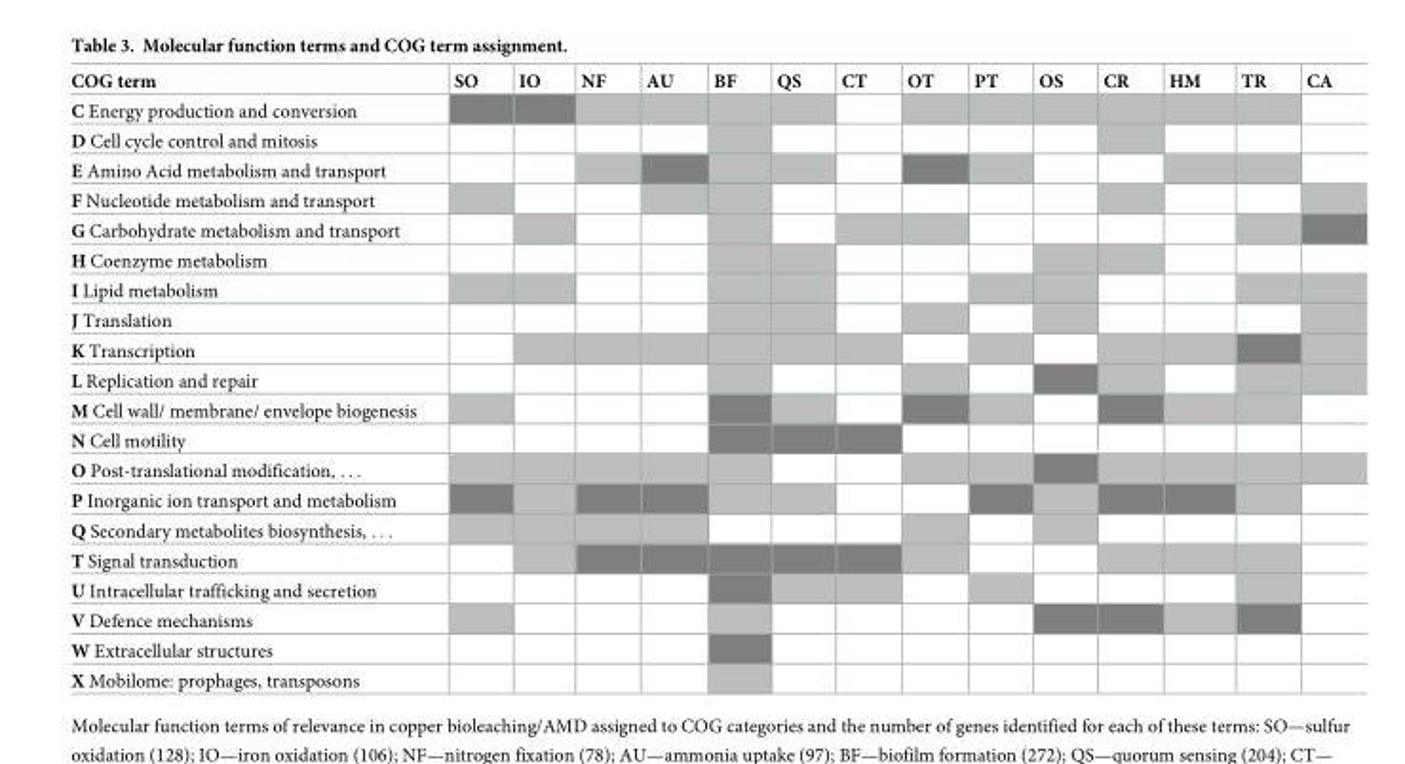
<table><thead><tr><td>COG term</td><td>SO</td><td>IO</td><td>NF</td><td>AU</td><td>BF</td><td>QS</td><td>CT</td><td>OT</td><td>PT</td><td>OS</td><td>CR</td><td>HM</td><td>TR</td><td>CA</td></tr></thead><tbody><tr><td colspan="15">C Energy production and conversion</td></tr><tr><td colspan="15">D Cell cycle control and mitosis</td></tr><tr><td colspan="15">E Amino Acid metabolism and transport</td></tr><tr><td colspan="15">F Nucleotide metabolism and transport</td></tr><tr><td colspan="15">G Carbohydrate metabolism and transport</td></tr><tr><td colspan="15">H Coenzyme metabolism</td></tr><tr><td colspan="15">I Lipid metabolism</td></tr><tr><td colspan="15">J Translation</td></tr><tr><td colspan="15">K Transcription</td></tr><tr><td colspan="15">L Replication and repair</td></tr><tr><td colspan="15">M Cell wall/ membrane/ envelope biogenesis</td></tr><tr><td colspan="15">N Cell motility</td></tr><tr><td colspan="15">O Post-translational modification, . . .</td></tr><tr><td colspan="15">P Inorganic ion transport and metabolism</td></tr><tr><td colspan="15">Q Secondary metabolites biosynthesis, . . .</td></tr><tr><td colspan="15">T Signal transduction</td></tr><tr><td colspan="15">U Intracellular trafficking and secretion</td></tr><tr><td colspan="15">V Defence mechanisms</td></tr><tr><td colspan="15">W Extracellular structures</td></tr><tr><td>X Mobilome: prophages, transposons</td><td></td><td></td><td></td><td></td><td></td><td></td><td></td><td></td><td></td><td></td><td></td><td></td><td></td><td></td></tr></tbody></table>